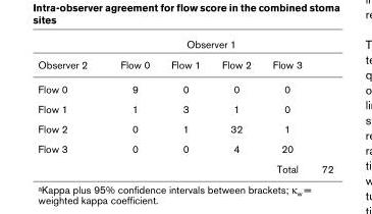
<table><thead><tr><td rowspan="2">Observer 2</td><td colspan="4">Observer 1</td><td rowspan="2"></td></tr><tr><td>Flow 0</td><td>Flow 1</td><td>Flow 2</td><td>Flow 3</td></tr></thead><tbody><tr><td>Flow 0</td><td>9</td><td>0</td><td>0</td><td>0</td><td></td></tr><tr><td>Flow 1</td><td>1</td><td>3</td><td>1</td><td>0</td><td></td></tr><tr><td>Flow 2</td><td>0</td><td>1</td><td>32</td><td>1</td><td></td></tr><tr><td rowspan="2">Flow 3</td><td>0</td><td>0</td><td>4</td><td>20</td><td></td></tr><tr><td></td><td></td><td></td><td>Total</td><td>72</td></tr></tbody></table>